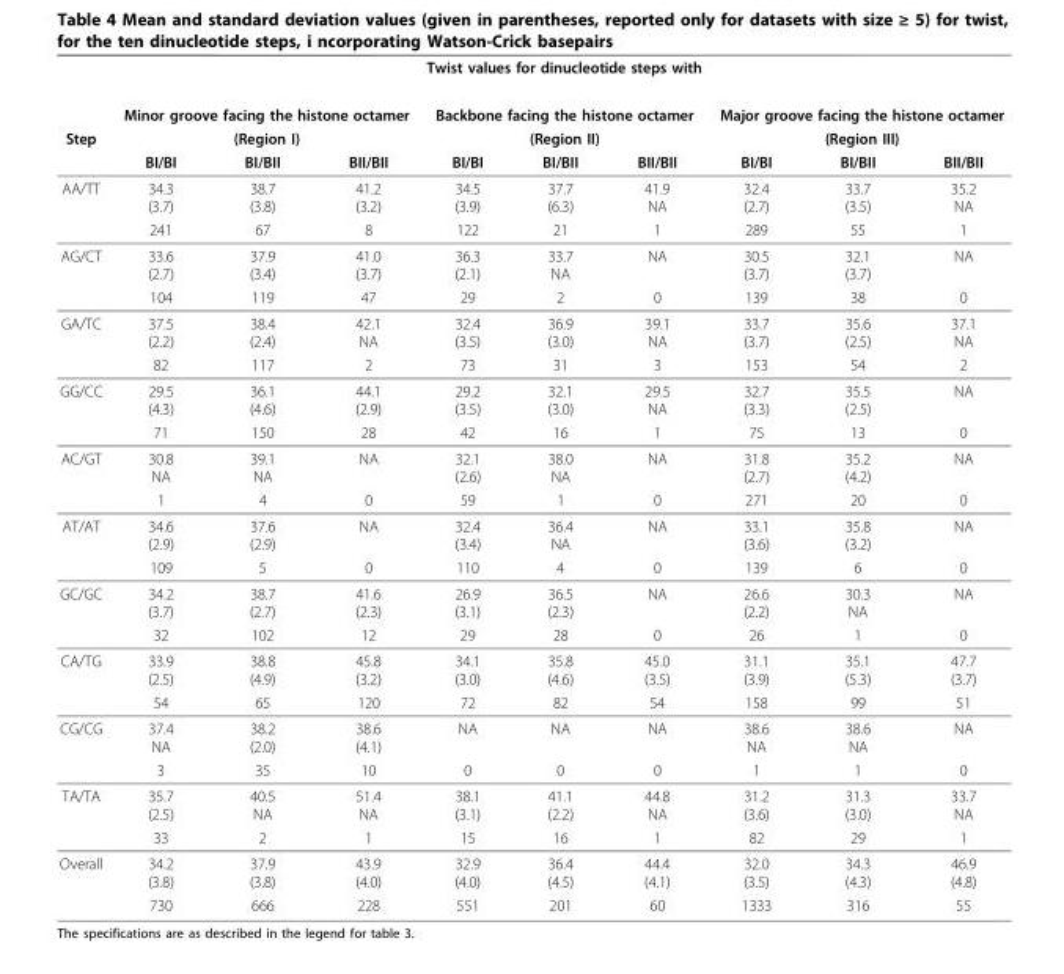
<table><thead><tr><td rowspan="4">Step</td><td colspan="9">Twist values for dinucleotide steps with</td></tr><tr><td rowspan="2" colspan="3">Minor groove facing the histone octamer (Region I)</td><td rowspan="2" colspan="3">Backbone facing the histone octamer (Region II)</td><td rowspan="2" colspan="3">Major groove facing the histone octamer (Region III)</td></tr><tr></tr><tr><td>BI/BI</td><td>BI/BII</td><td>BII/BII</td><td>BI/BI</td><td>BI/BII</td><td>BII/BII</td><td>BI/BI</td><td>BI/BII</td><td>BII/BII</td></tr></thead><tbody><tr><td rowspan="2">AA/TT</td><td>34.3 (3.7)</td><td>38.7 (3.8)</td><td>41.2 (3.2)</td><td>34.5 (3.9)</td><td>37.7 (6.3)</td><td>41.9 NA</td><td>32.4 (2.7)</td><td>33.7 (3.5)</td><td>35.2 NA</td></tr><tr><td>241</td><td>67</td><td>8</td><td>122</td><td>21</td><td>1</td><td>289</td><td>55</td><td>1</td></tr><tr><td rowspan="2">AG/CT</td><td>33.6 (2.7)</td><td>37.9 (3.4)</td><td>41.0 (3.7)</td><td>36.3 (2.1)</td><td>33.7 NA</td><td>NA</td><td>30.5 (3.7)</td><td>32.1 (3.7)</td><td>NA</td></tr><tr><td>104</td><td>119</td><td>47</td><td>29</td><td>2</td><td>0</td><td>139</td><td>38</td><td>0</td></tr><tr><td rowspan="2">GA/TC</td><td>37.5 (2.2)</td><td>38.4 (2.4)</td><td>42.1 NA</td><td>32.4 (3.5)</td><td>36.9 (3.0)</td><td>39.1 NA</td><td>33.7 (3.7)</td><td>35.6 (2.5)</td><td>37.1 NA</td></tr><tr><td>82</td><td>117</td><td>2</td><td>73</td><td>31</td><td>3</td><td>153</td><td>54</td><td>2</td></tr><tr><td rowspan="2">GG/CC</td><td>29.5 (4.3)</td><td>36.1 (4.6)</td><td>44.1 (2.9)</td><td>29.2 (3.5)</td><td>32.1 (3.0)</td><td>29.5 NA</td><td>32.7 (3.3)</td><td>35.5 (2.5)</td><td>NA</td></tr><tr><td>71</td><td>150</td><td>28</td><td>42</td><td>16</td><td>1</td><td>75</td><td>13</td><td>0</td></tr><tr><td rowspan="2">AC/GT</td><td>30.8 NA</td><td>39.1 NA</td><td>NA</td><td>32.1 (2.6)</td><td>38.0 NA</td><td>NA</td><td>31.8 (2.7)</td><td>35.2 (4.2)</td><td>NA</td></tr><tr><td>1</td><td>4</td><td>0</td><td>59</td><td>1</td><td>0</td><td>271</td><td>20</td><td>0</td></tr><tr><td rowspan="2">AT/AT</td><td>34.6 (2.9)</td><td>37.6 (2.9)</td><td>NA</td><td>32.4 (3.4)</td><td>36.4 NA</td><td>NA</td><td>33.1 (3.6)</td><td>35.8 (3.2)</td><td>NA</td></tr><tr><td>109</td><td>5</td><td>0</td><td>110</td><td>4</td><td>0</td><td>139</td><td>6</td><td>0</td></tr><tr><td rowspan="2">GC/GC</td><td>34.2 (3.7)</td><td>38.7 (2.7)</td><td>41.6 (2.3)</td><td>26.9 (3.1)</td><td>36.5 (2.3)</td><td>NA</td><td>26.6 (2.2)</td><td>30.3 NA</td><td>NA</td></tr><tr><td>32</td><td>102</td><td>12</td><td>29</td><td>28</td><td>0</td><td>26</td><td>1</td><td>0</td></tr><tr><td rowspan="2">CA/TG</td><td>33.9 (2.5)</td><td>38.8 (4.9)</td><td>45.8 (3.2)</td><td>34.1 (3.0)</td><td>35.8 (4.6)</td><td>45.0 (3.5)</td><td>31.1 (3.9)</td><td>35.1 (5.3)</td><td>47.7 (3.7)</td></tr><tr><td>54</td><td>65</td><td>120</td><td>72</td><td>82</td><td>54</td><td>158</td><td>99</td><td>51</td></tr><tr><td rowspan="2">CG/CG</td><td>37.4 NA</td><td>38.2 (2.0)</td><td>38.6 (4.1)</td><td>NA</td><td>NA</td><td>NA</td><td>38.6 NA</td><td>38.6 NA</td><td>NA</td></tr><tr><td>3</td><td>35</td><td>10</td><td>0</td><td>0</td><td>0</td><td>1</td><td>1</td><td>0</td></tr><tr><td rowspan="2">TA/TA</td><td>35.7 (2.5)</td><td>40.5 NA</td><td>51.4 NA</td><td>38.1 (3.1)</td><td>41.1 (2.2)</td><td>44.8 NA</td><td>31.2 (3.6)</td><td>31.3 (3.0)</td><td>33.7 NA</td></tr><tr><td>33</td><td>2</td><td>1</td><td>15</td><td>16</td><td>1</td><td>82</td><td>29</td><td>1</td></tr><tr><td rowspan="2">Overall</td><td>34.2 (3.8)</td><td>37.9 (3.8)</td><td>43.9 (4.0)</td><td>32.9 (4.0)</td><td>36.4 (4.5)</td><td>44.4 (4.1)</td><td>32.0 (3.5)</td><td>34.3 (4.3)</td><td>46.9 (4.8)</td></tr><tr><td>730</td><td>666</td><td>228</td><td>551</td><td>201</td><td>60</td><td>1333</td><td>316</td><td>55</td></tr></tbody></table>